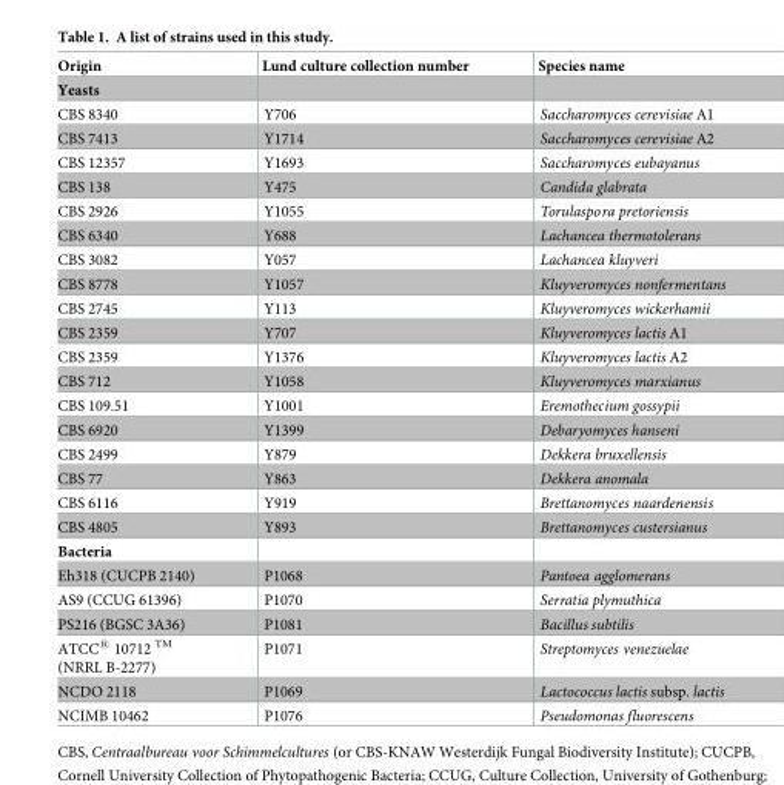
<table><thead><tr><td>Origin</td><td>Lund culture collection number</td><td>Species name</td></tr></thead><tbody><tr><td colspan="3">Yeasts</td></tr><tr><td>CBS 8340</td><td>Y706</td><td>Saccharomyces cerevisiae A1</td></tr><tr><td>CBS 7413</td><td>Y1714</td><td>Saccharomyces cerevisiae A2</td></tr><tr><td>CBS 12357</td><td>Y1693</td><td>Saccharomyces eubayanus</td></tr><tr><td>CBS 138</td><td>Y475</td><td>Candida glabrata</td></tr><tr><td>CBS 2926</td><td>Y1055</td><td>Torulaspora pretoriensis</td></tr><tr><td>CBS 6340</td><td>Y688</td><td>Lachancea thermotolerans</td></tr><tr><td>CBS 3082</td><td>Y057</td><td>Lachancea kluyveri</td></tr><tr><td>CBS 8778</td><td>Y1057</td><td>Kluyveromyces nonfermentans</td></tr><tr><td>CBS 2745</td><td>Y113</td><td>Kluyveromyces wickerhamii</td></tr><tr><td>CBS 2359</td><td>Y707</td><td>Kluyveromyces lactis A1</td></tr><tr><td>CBS 2359</td><td>Y1376</td><td>Kluyveromyces lactis A2</td></tr><tr><td>CBS 712</td><td>Y1058</td><td>Kluyveromyces marxianus</td></tr><tr><td>CBS 109.51</td><td>Y1001</td><td>Eremothecium gossypii</td></tr><tr><td>CBS 6920</td><td>Y1399</td><td>Debaryomyces hanseni</td></tr><tr><td>CBS 2499</td><td>Y879</td><td>Dekkera bruxellensis</td></tr><tr><td>CBS 77</td><td>Y863</td><td>Dekkera anomala</td></tr><tr><td>CBS 6116</td><td>Y919</td><td>Brettanomyces naardenensis</td></tr><tr><td>CBS 4805</td><td>Y893</td><td>Brettanomyces custersianus</td></tr><tr><td colspan="3">Bacteria</td></tr><tr><td>Eh318 (CUCPB 2140)</td><td>P1068</td><td>Pantoea agglomerans</td></tr><tr><td>AS9 (CCUG 61396)</td><td>P1070</td><td>Serratia plymuthica</td></tr><tr><td>PS216 (BGSC 3A36)</td><td>P1081</td><td>Bacillus subtilis</td></tr><tr><td>ATCC<sup>®</sup> 10712 <sup>TM</sup> (NRRL B-2277)</td><td>P1071</td><td>Streptomyces venezuelae</td></tr><tr><td>NCDO 2118</td><td>P1069</td><td>Lactococcus lactis subsp. lactis</td></tr><tr><td>NCIMB 10462</td><td>P1076</td><td>Pseudomonas fluorescens</td></tr></tbody></table>